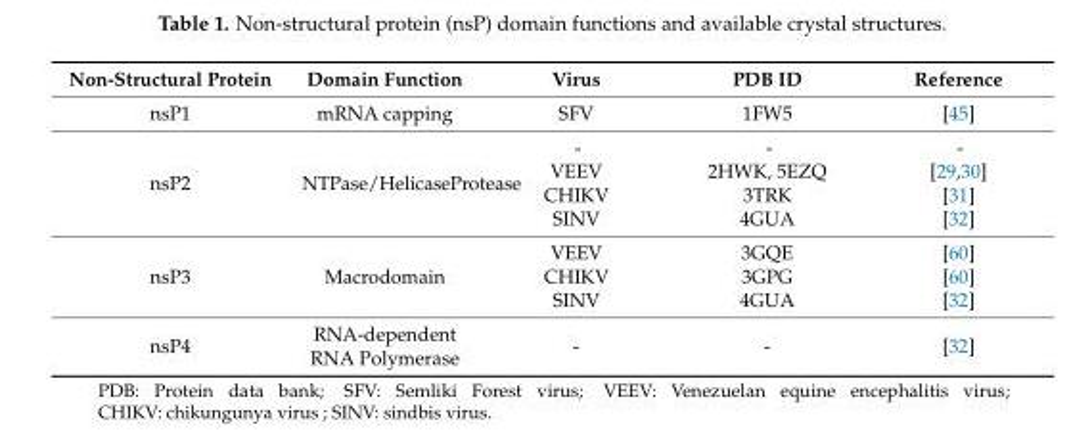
<table><thead><tr><td>Non-Structural Protein</td><td>Domain Function</td><td>Virus</td><td>PDB ID</td><td>Reference</td></tr></thead><tbody><tr><td>nsP1</td><td>mRNA capping</td><td>SFV</td><td>1FW5</td><td>[45]</td></tr><tr><td>nsP2</td><td>NTPase/HelicaseProtease</td><td>- VEEV CHIKV SINV</td><td>- 2HWK, 5EZQ 3TRK 4GUA</td><td>- [29,30] [31] [32]</td></tr><tr><td>nsP3</td><td>Macrodomain</td><td>VEEV CHIKV SINV</td><td>3GQE 3GPG 4GUA</td><td>[60] [60] [32]</td></tr><tr><td>nsP4</td><td>RNA-dependent RNA Polymerase</td><td>-</td><td>-</td><td>[32]</td></tr></tbody></table>